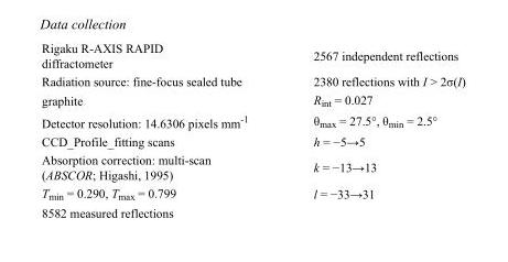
<table><tbody><tr><td>Rigaku R-AXIS RAPID diffractometer</td><td>2567 independent reflections</td></tr><tr><td>Radiation source: fine-focus sealed tube</td><td>2380 reflections with I &gt; 2σ(I)</td></tr><tr><td>graphite</td><td>R<sub>int</sub> = 0.027</td></tr><tr><td>Detector resolution: 14.6306 pixels mm<sup>-1</sup></td><td>θ<sub>max</sub> = 27.5°, θ<sub>min</sub> = 2.5°</td></tr><tr><td>CCD_Profile_fitting scans</td><td>h = −5→5</td></tr><tr><td>Absorption correction: multi-scan (ABSCOR; Higashi, 1995)</td><td>k = −13→13</td></tr><tr><td>T<sub>min</sub> = 0.290, T<sub>max</sub> = 0.799</td><td>l = −33→31</td></tr><tr><td>8582 measured reflections</td><td></td></tr></tbody></table>